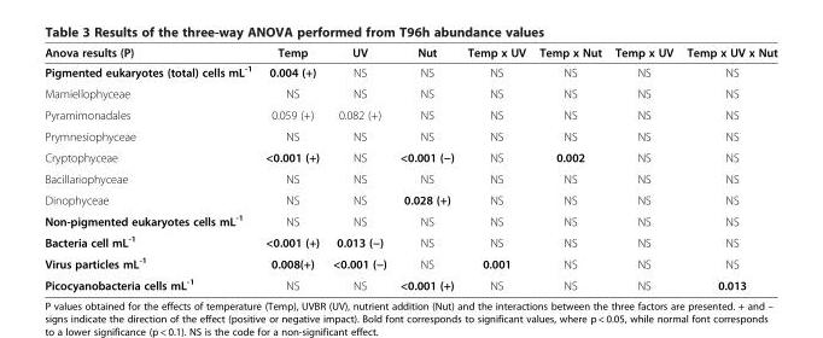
<table><thead><tr><td>Anova results (P)</td><td>Temp</td><td>UV</td><td>Nut</td><td>Temp x UV</td><td>Temp x Nut</td><td>Temp x UV</td><td>Temp x UV x Nut</td></tr></thead><tbody><tr><td>Pigmented eukaryotes (total) cells mL<sup>-1</sup></td><td>0.004 (+)</td><td>NS</td><td>NS</td><td>NS</td><td>NS</td><td>NS</td><td>NS</td></tr><tr><td>Mamiellophyceae</td><td>NS</td><td>NS</td><td>NS</td><td>NS</td><td>NS</td><td>NS</td><td>NS</td></tr><tr><td>Pyramimonadales</td><td>0.059 (+)</td><td>0.082 (+)</td><td>NS</td><td>NS</td><td>NS</td><td>NS</td><td>NS</td></tr><tr><td>Prymnesiophyceae</td><td>NS</td><td>NS</td><td>NS</td><td>NS</td><td>NS</td><td>NS</td><td>NS</td></tr><tr><td>Cryptophyceae</td><td>&lt;0.001 (+)</td><td>NS</td><td>&lt;0.001 (−)</td><td>NS</td><td>0.002</td><td>NS</td><td>NS</td></tr><tr><td>Bacillariophyceae</td><td>NS</td><td>NS</td><td>NS</td><td>NS</td><td>NS</td><td>NS</td><td>NS</td></tr><tr><td>Dinophyceae</td><td>NS</td><td>NS</td><td>0.028 (+)</td><td>NS</td><td>NS</td><td>NS</td><td>NS</td></tr><tr><td>Non-pigmented eukaryotes cells mL<sup>-1</sup></td><td>NS</td><td>NS</td><td>NS</td><td>NS</td><td>NS</td><td>NS</td><td>NS</td></tr><tr><td>Bacteria cell mL<sup>-1</sup></td><td>&lt;0.001 (+)</td><td>0.013 (−)</td><td>NS</td><td>NS</td><td>NS</td><td>NS</td><td>NS</td></tr><tr><td>Virus particles mL<sup>-1</sup></td><td>0.008(+)</td><td>&lt;0.001 (−)</td><td>NS</td><td>0.001</td><td>NS</td><td>NS</td><td>NS</td></tr><tr><td>Picocyanobacteria cells mL<sup>-1</sup></td><td>NS</td><td>NS</td><td>&lt;0.001 (+)</td><td>NS</td><td>NS</td><td>NS</td><td>0.013</td></tr></tbody></table>